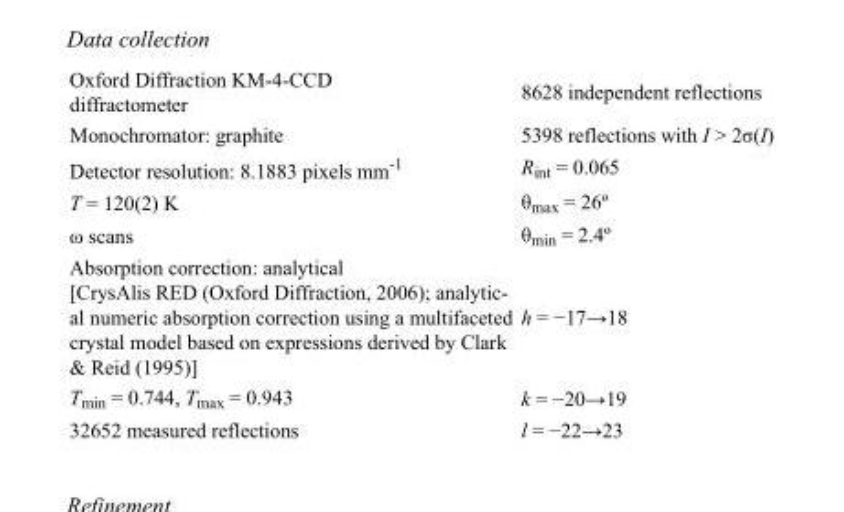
<table><tbody><tr><td>Oxford Diffraction KM-4-CCD diffractometer</td><td>8628 independent reflections</td></tr><tr><td>Monochromator: graphite</td><td>5398 reflections with I &gt; 2σ(I)</td></tr><tr><td>Detector resolution: 8.1883 pixels mm<sup>-1</sup></td><td>R<sub>int</sub> = 0.065</td></tr><tr><td>T = 120(2) K</td><td>θ<sub>max</sub> = 26º</td></tr><tr><td>ω scans</td><td>θ<sub>min</sub> = 2.4º</td></tr><tr><td>Absorption correction: analytical [CrysAlis RED (Oxford Diffraction, 2006); analytic- al numeric absorption correction using a multifaceted crystal model based on expressions derived by Clark &amp; Reid (1995)]</td><td>h = −17→18</td></tr><tr><td>T<sub>min</sub> = 0.744, T<sub>max</sub> = 0.943</td><td>k = −20→19</td></tr><tr><td>32652 measured reflections</td><td>l = −22→23</td></tr></tbody></table>